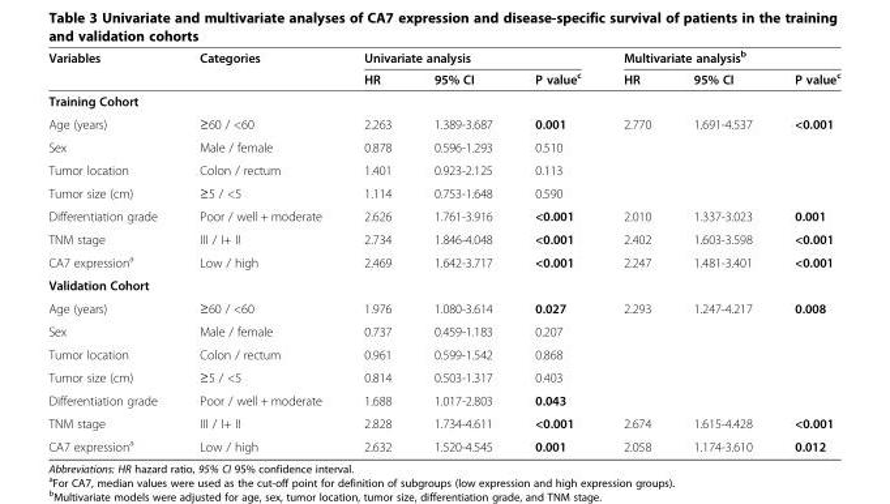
<table><thead><tr><td rowspan="2">Variables</td><td rowspan="2">Categories</td><td colspan="3">Univariate analysis</td><td colspan="3">Multivariate analysis<sup>b</sup></td></tr><tr><td>HR</td><td>95% CI</td><td>P value<sup>c</sup></td><td>HR</td><td>95% CI</td><td>P value<sup>c</sup></td></tr></thead><tbody><tr><td colspan="8">Training Cohort</td></tr><tr><td>Age (years)</td><td>≥60 / &lt;60</td><td>2.263</td><td>1.389-3.687</td><td>0.001</td><td>2.770</td><td>1.691-4.537</td><td>&lt;0.001</td></tr><tr><td>Sex</td><td>Male / female</td><td>0.878</td><td>0.596-1.293</td><td>0.510</td><td></td><td></td><td></td></tr><tr><td>Tumor location</td><td>Colon / rectum</td><td>1.401</td><td>0.923-2.125</td><td>0.113</td><td></td><td></td><td></td></tr><tr><td>Tumor size (cm)</td><td>≥5 / &lt;5</td><td>1.114</td><td>0.753-1.648</td><td>0.590</td><td></td><td></td><td></td></tr><tr><td>Differentiation grade</td><td>Poor / well + moderate</td><td>2.626</td><td>1.761-3.916</td><td>&lt;0.001</td><td>2.010</td><td>1.337-3.023</td><td>0.001</td></tr><tr><td>TNM stage</td><td>III / I+ II</td><td>2.734</td><td>1.846-4.048</td><td>&lt;0.001</td><td>2.402</td><td>1.603-3.598</td><td>&lt;0.001</td></tr><tr><td>CA7 expression<sup>a</sup></td><td>Low / high</td><td>2.469</td><td>1.642-3.717</td><td>&lt;0.001</td><td>2.247</td><td>1.481-3.401</td><td>&lt;0.001</td></tr><tr><td colspan="8">Validation Cohort</td></tr><tr><td>Age (years)</td><td>≥60 / &lt;60</td><td>1.976</td><td>1.080-3.614</td><td>0.027</td><td>2.293</td><td>1.247-4.217</td><td>0.008</td></tr><tr><td>Sex</td><td>Male / female</td><td>0.737</td><td>0.459-1.183</td><td>0.207</td><td></td><td></td><td></td></tr><tr><td>Tumor location</td><td>Colon / rectum</td><td>0.961</td><td>0.599-1.542</td><td>0.868</td><td></td><td></td><td></td></tr><tr><td>Tumor size (cm)</td><td>≥5 / &lt;5</td><td>0.814</td><td>0.503-1.317</td><td>0.403</td><td></td><td></td><td></td></tr><tr><td>Differentiation grade</td><td>Poor / well + moderate</td><td>1.688</td><td>1.017-2.803</td><td>0.043</td><td></td><td></td><td></td></tr><tr><td>TNM stage</td><td>III / I+ II</td><td>2.828</td><td>1.734-4.611</td><td>&lt;0.001</td><td>2.674</td><td>1.615-4.428</td><td>&lt;0.001</td></tr><tr><td>CA7 expression<sup>a</sup></td><td>Low / high</td><td>2.632</td><td>1.520-4.545</td><td>0.001</td><td>2.058</td><td>1.174-3.610</td><td>0.012</td></tr></tbody></table>